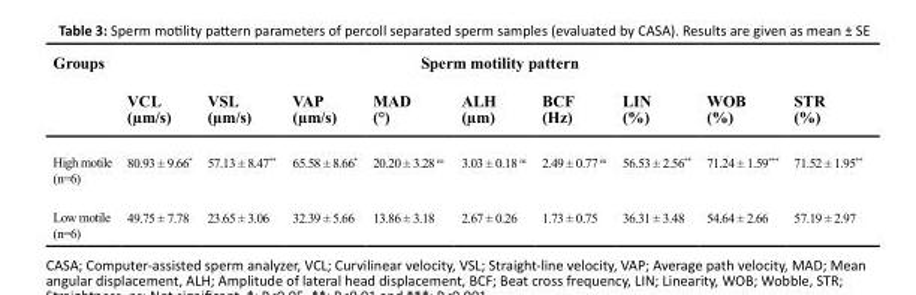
<table><thead><tr><td rowspan="2">Groups</td><td colspan="9">Sperm motility pattern</td></tr><tr><td>VCL (µm/s)</td><td>VSL (µm/s)</td><td>VAP (µm/s)</td><td>MAD (°)</td><td>ALH (µm)</td><td>BCF (Hz)</td><td>LIN (%)</td><td>WOB (%)</td><td>STR (%)</td></tr></thead><tbody><tr><td>High motile (n=6)</td><td>80.93 ± 9.66*</td><td>57.13 ± 8.47**</td><td>65.58 ± 8.66*</td><td>20.20 ± 3.28 ns</td><td>3.03 ± 0.18 ns</td><td>2.49 ± 0.77 ns</td><td>56.53 ± 2.56**</td><td>71.24 ± 1.59***</td><td>71.52 ± 1.95**</td></tr><tr><td>Low motile (n=6)</td><td>49.75 ± 7.78</td><td>23.65 ± 3.06</td><td>32.39 ± 5.66</td><td>13.86 ± 3.18</td><td>2.67 ± 0.26</td><td>1.73 ± 0.75</td><td>36.31 ± 3.48</td><td>54.64 ± 2.66</td><td>57.19 ± 2.97</td></tr></tbody></table>